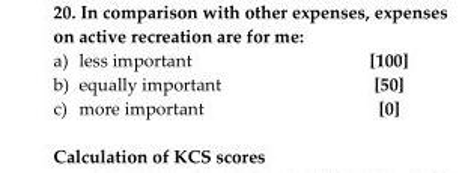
<table><tbody><tr><td>a) less important</td><td>[100]</td></tr><tr><td>b) equally important</td><td>[50]</td></tr><tr><td>c) more important</td><td>[0]</td></tr></tbody></table>